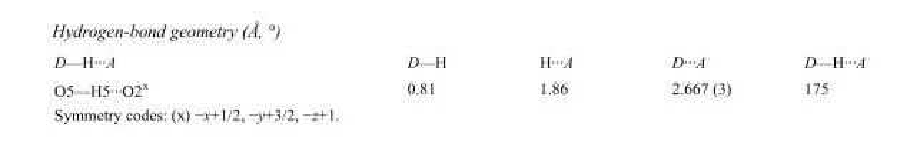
<table><tbody><tr><td>D—H···A</td><td>D—H</td><td>H···A</td><td>D···A</td><td>D—H···A</td></tr><tr><td>O5—H5···O2<sup>x</sup></td><td>0.81</td><td>1.86</td><td>2.667 (3)</td><td>175</td></tr></tbody></table>